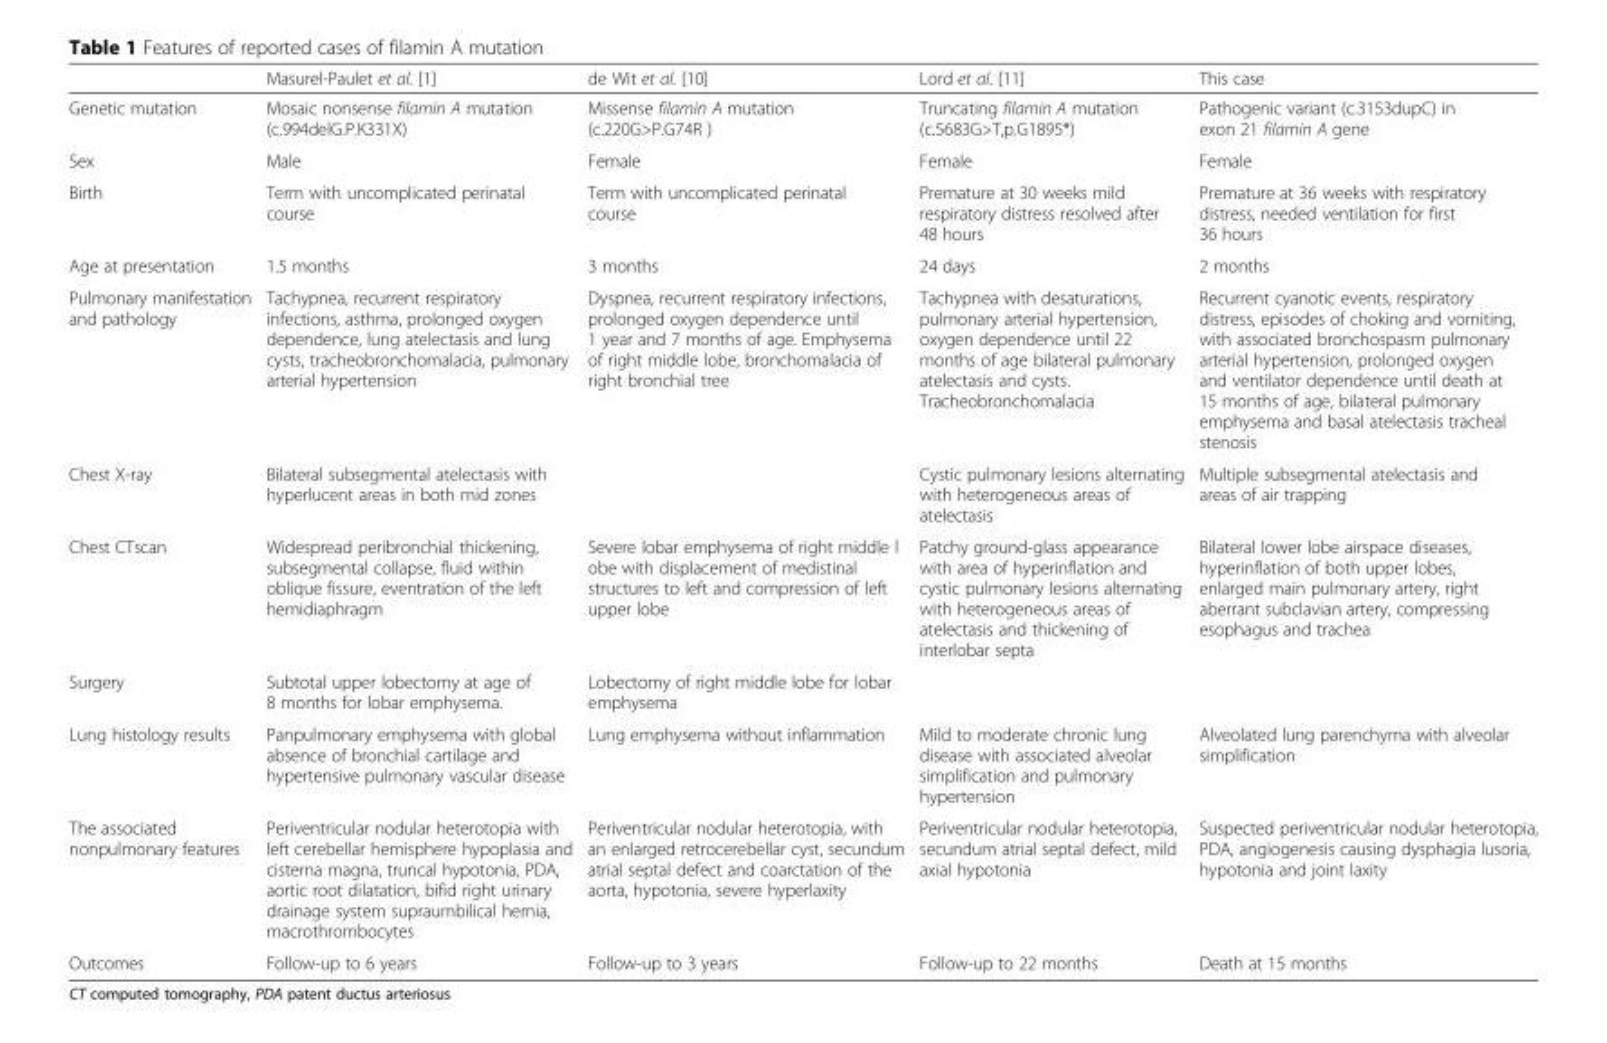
<table><thead><tr><td></td><td>Masurel-Paulet et al. [1]</td><td>de Wit et al. [10]</td><td>Lord et al. [11]</td><td>This case</td></tr></thead><tbody><tr><td>Genetic mutation</td><td>Mosaic nonsense filamin A mutation (c.994delG.P.K331X)</td><td>Missense filamin A mutation (c.220G&gt;P.G74R )</td><td>Truncating filamin A mutation (c.5683G&gt;T,p.G1895*)</td><td>Pathogenic variant (c.3153dupC) in exon 21 filamin A gene</td></tr><tr><td>Sex</td><td>Male</td><td>Female</td><td>Female</td><td>Female</td></tr><tr><td>Birth</td><td>Term with uncomplicated perinatal course</td><td>Term with uncomplicated perinatal course</td><td>Premature at 30 weeks mild respiratory distress resolved after 48 hours</td><td>Premature at 36 weeks with respiratory distress, needed ventilation for first 36 hours</td></tr><tr><td>Age at presentation</td><td>1.5 months</td><td>3 months</td><td>24 days</td><td>2 months</td></tr><tr><td>Pulmonary manifestation and pathology</td><td>Tachypnea, recurrent respiratory infections, asthma, prolonged oxygen dependence, lung atelectasis and lung cysts, tracheobronchomalacia, pulmonary arterial hypertension</td><td>Dyspnea, recurrent respiratory infections, prolonged oxygen dependence until 1 year and 7 months of age. Emphysema of right middle lobe, bronchomalacia of right bronchial tree</td><td>Tachypnea with desaturations, pulmonary arterial hypertension, oxygen dependence until 22 months of age bilateral pulmonary atelectasis and cysts. Tracheobronchomalacia</td><td>Recurrent cyanotic events, respiratory distress, episodes of choking and vomiting, with associated bronchospasm pulmonary arterial hypertension, prolonged oxygen and ventilator dependence until death at 15 months of age, bilateral pulmonary emphysema and basal atelectasis tracheal stenosis</td></tr><tr><td>Chest X-ray</td><td>Bilateral subsegmental atelectasis with hyperlucent areas in both mid zones</td><td></td><td>Cystic pulmonary lesions alternating with heterogeneous areas of atelectasis</td><td>Multiple subsegmental atelectasis and areas of air trapping</td></tr><tr><td>Chest CTscan</td><td>Widespread peribronchial thickening, subsegmental collapse, fluid within oblique fissure, eventration of the left hemidiaphragm</td><td>Severe lobar emphysema of right middle l obe with displacement of medistinal structures to left and compression of left upper lobe</td><td>Patchy ground-glass appearance with area of hyperinflation and cystic pulmonary lesions alternating with heterogeneous areas of atelectasis and thickening of interlobar septa</td><td>Bilateral lower lobe airspace diseases, hyperinflation of both upper lobes, enlarged main pulmonary artery, right aberrant subclavian artery, compressing esophagus and trachea</td></tr><tr><td>Surgery</td><td>Subtotal upper lobectomy at age of 8 months for lobar emphysema.</td><td>Lobectomy of right middle lobe for lobar emphysema</td><td></td><td></td></tr><tr><td>Lung histology results</td><td>Panpulmonary emphysema with global absence of bronchial cartilage and hypertensive pulmonary vascular disease</td><td>Lung emphysema without inflammation</td><td>Mild to moderate chronic lung disease with associated alveolar simplification and pulmonary hypertension</td><td>Alveolated lung parenchyma with alveolar simplification</td></tr><tr><td>The associated nonpulmonary features</td><td>Periventricular nodular heterotopia with left cerebellar hemisphere hypoplasia and cisterna magna, truncal hypotonia, PDA, aortic root dilatation, bifid right urinary drainage system supraumbilical hernia, macrothrombocytes</td><td>Periventricular nodular heterotopia, with an enlarged retrocerebellar cyst, secundum atrial septal defect and coarctation of the aorta, hypotonia, severe hyperlaxity</td><td>Periventricular nodular heterotopia, secundum atrial septal defect, mild axial hypotonia</td><td>Suspected periventricular nodular heterotopia, PDA, angiogenesis causing dysphagia lusoria, hypotonia and joint laxity</td></tr><tr><td>Outcomes</td><td>Follow-up to 6 years</td><td>Follow-up to 3 years</td><td>Follow-up to 22 months</td><td>Death at 15 months</td></tr></tbody></table>